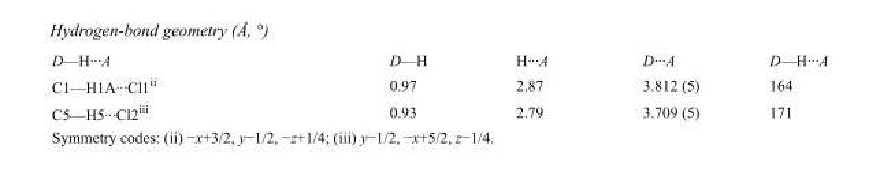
<table><tbody><tr><td>D—H···A</td><td>D—H</td><td>H···A</td><td>D···A</td><td>D—H···A</td></tr><tr><td>C1—H1A···Cl1<sup>ii</sup></td><td>0.97</td><td>2.87</td><td>3.812 (5)</td><td>164</td></tr><tr><td>C5—H5···Cl2<sup>iii</sup></td><td>0.93</td><td>2.79</td><td>3.709 (5)</td><td>171</td></tr></tbody></table>